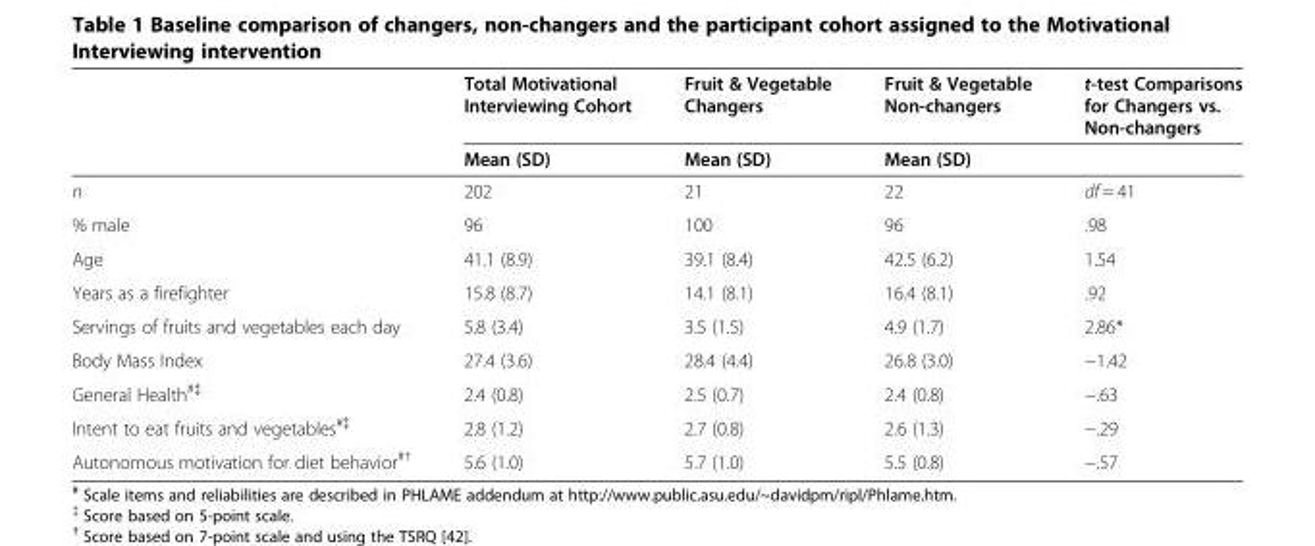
<table><thead><tr><td rowspan="2"></td><td rowspan="2">Total Motivational Interviewing Cohort Mean (SD)</td><td rowspan="2">Fruit &amp; Vegetable Changers Mean (SD)</td><td rowspan="2">Fruit &amp; Vegetable Non-changers Mean (SD)</td><td rowspan="2">t-test Comparisons for Changers vs. Non-changers</td></tr><tr></tr></thead><tbody><tr><td>n</td><td>202</td><td>21</td><td>22</td><td>df = 41</td></tr><tr><td>% male</td><td>96</td><td>100</td><td>96</td><td>.98</td></tr><tr><td>Age</td><td>41.1 (8.9)</td><td>39.1 (8.4)</td><td>42.5 (6.2)</td><td>1.54</td></tr><tr><td>Years as a firefighter</td><td>15.8 (8.7)</td><td>14.1 (8.1)</td><td>16.4 (8.1)</td><td>.92</td></tr><tr><td>Servings of fruits and vegetables each day</td><td>5.8 (3.4)</td><td>3.5 (1.5)</td><td>4.9 (1.7)</td><td>2.86*</td></tr><tr><td>Body Mass Index</td><td>27.4 (3.6)</td><td>28.4 (4.4)</td><td>26.8 (3.0)</td><td>−1.42</td></tr><tr><td>General Health<sup>#‡</sup></td><td>2.4 (0.8)</td><td>2.5 (0.7)</td><td>2.4 (0.8)</td><td>−.63</td></tr><tr><td>Intent to eat fruits and vegetables<sup>#‡</sup></td><td>2.8 (1.2)</td><td>2.7 (0.8)</td><td>2.6 (1.3)</td><td>−.29</td></tr><tr><td>Autonomous motivation for diet behavior<sup>#†</sup></td><td>5.6 (1.0)</td><td>5.7 (1.0)</td><td>5.5 (0.8)</td><td>−.57</td></tr></tbody></table>